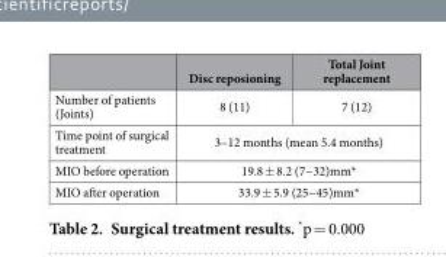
<table><thead><tr><td></td><td>Disc reposioning</td><td>Total Joint replacement</td></tr></thead><tbody><tr><td>Number of patients (Joints)</td><td>8 (11)</td><td>7 (12)</td></tr><tr><td>Time point of surgical treatment</td><td colspan="2">3–12 months (mean 5.4 months)</td></tr><tr><td>MIO before operation</td><td colspan="2">19.8 ± 8.2 (7~32)mm*</td></tr><tr><td>MIO after operation</td><td colspan="2">33.9 ± 5.9 (25~45)mm*</td></tr></tbody></table>